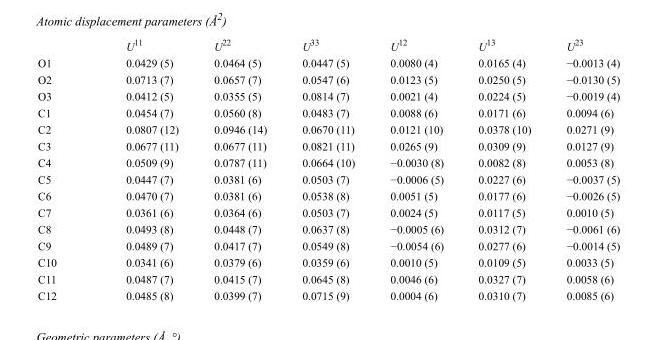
<table><thead><tr><td></td><td>U<sup>11</sup></td><td>U<sup>22</sup></td><td>U<sup>33</sup></td><td>U<sup>12</sup></td><td>U<sup>13</sup></td><td>U<sup>23</sup></td></tr></thead><tbody><tr><td>O1</td><td>0.0429 (5)</td><td>0.0464 (5)</td><td>0.0447 (5)</td><td>0.0080 (4)</td><td>0.0165 (4)</td><td>−0.0013 (4)</td></tr><tr><td>O2</td><td>0.0713 (7)</td><td>0.0657 (7)</td><td>0.0547 (6)</td><td>0.0123 (5)</td><td>0.0250 (5)</td><td>−0.0130 (5)</td></tr><tr><td>O3</td><td>0.0412 (5)</td><td>0.0355 (5)</td><td>0.0814 (7)</td><td>0.0021 (4)</td><td>0.0224 (5)</td><td>−0.0019 (4)</td></tr><tr><td>C1</td><td>0.0454 (7)</td><td>0.0560 (8)</td><td>0.0483 (7)</td><td>0.0088 (6)</td><td>0.0171 (6)</td><td>0.0094 (6)</td></tr><tr><td>C2</td><td>0.0807 (12)</td><td>0.0946 (14)</td><td>0.0670 (11)</td><td>0.0121 (10)</td><td>0.0378 (10)</td><td>0.0271 (9)</td></tr><tr><td>C3</td><td>0.0677 (11)</td><td>0.0677 (11)</td><td>0.0821 (11)</td><td>0.0265 (9)</td><td>0.0309 (9)</td><td>0.0127 (9)</td></tr><tr><td>C4</td><td>0.0509 (9)</td><td>0.0787 (11)</td><td>0.0664 (10)</td><td>−0.0030 (8)</td><td>0.0082 (8)</td><td>0.0053 (8)</td></tr><tr><td>C5</td><td>0.0447 (7)</td><td>0.0381 (6)</td><td>0.0503 (7)</td><td>−0.0006 (5)</td><td>0.0227 (6)</td><td>−0.0037 (5)</td></tr><tr><td>C6</td><td>0.0470 (7)</td><td>0.0381 (6)</td><td>0.0538 (8)</td><td>0.0051 (5)</td><td>0.0177 (6)</td><td>−0.0026 (5)</td></tr><tr><td>C7</td><td>0.0361 (6)</td><td>0.0364 (6)</td><td>0.0503 (7)</td><td>0.0024 (5)</td><td>0.0117 (5)</td><td>0.0010 (5)</td></tr><tr><td>C8</td><td>0.0493 (8)</td><td>0.0448 (7)</td><td>0.0637 (8)</td><td>−0.0005 (6)</td><td>0.0312 (7)</td><td>−0.0061 (6)</td></tr><tr><td>C9</td><td>0.0489 (7)</td><td>0.0417 (7)</td><td>0.0549 (8)</td><td>−0.0054 (6)</td><td>0.0277 (6)</td><td>−0.0014 (5)</td></tr><tr><td>C10</td><td>0.0341 (6)</td><td>0.0379 (6)</td><td>0.0359 (6)</td><td>0.0010 (5)</td><td>0.0109 (5)</td><td>0.0033 (5)</td></tr><tr><td>C11</td><td>0.0487 (7)</td><td>0.0415 (7)</td><td>0.0645 (8)</td><td>0.0046 (6)</td><td>0.0327 (7)</td><td>0.0058 (6)</td></tr><tr><td>C12</td><td>0.0485 (8)</td><td>0.0399 (7)</td><td>0.0715 (9)</td><td>0.0004 (6)</td><td>0.0310 (7)</td><td>0.0085 (6)</td></tr></tbody></table>